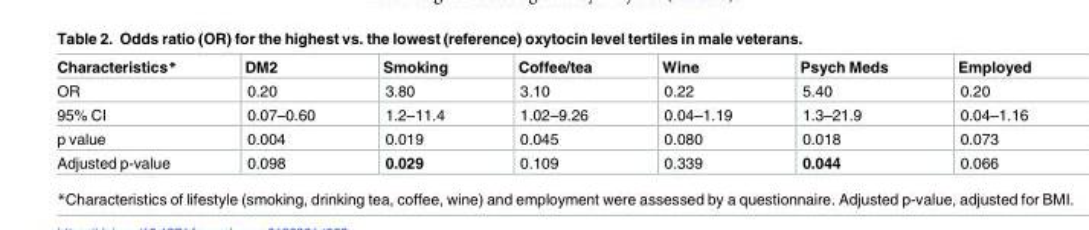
<table><thead><tr><td>Characteristics*</td><td>DM2</td><td>Smoking</td><td>Coffee/tea</td><td>Wine</td><td>Psych Meds</td><td>Employed</td></tr></thead><tbody><tr><td>OR</td><td>0.20</td><td>3.80</td><td>3.10</td><td>0.22</td><td>5.40</td><td>0.20</td></tr><tr><td>95% CI</td><td>0.07–0.60</td><td>1.2–11.4</td><td>1.02–9.26</td><td>0.04–1.19</td><td>1.3–21.9</td><td>0.04–1.16</td></tr><tr><td>p value</td><td>0.004</td><td>0.019</td><td>0.045</td><td>0.080</td><td>0.018</td><td>0.073</td></tr><tr><td>Adjusted p-value</td><td>0.098</td><td>0.029</td><td>0.109</td><td>0.339</td><td>0.044</td><td>0.066</td></tr></tbody></table>